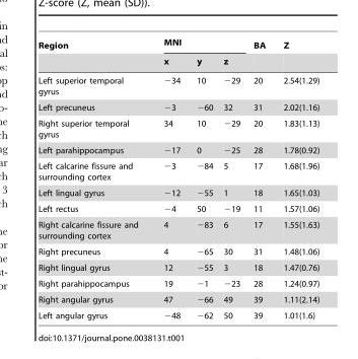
<table><thead><tr><td rowspan="2">Region</td><td colspan="3">MNI</td><td rowspan="2">BA</td><td rowspan="2">Z</td></tr><tr><td>x</td><td>y</td><td>z</td></tr></thead><tbody><tr><td>Left superior temporal gyrus</td><td>−34</td><td>10</td><td>−29</td><td>20</td><td>2.54(1.29)</td></tr><tr><td>Left precuneus</td><td>−3</td><td>−60</td><td>32</td><td>31</td><td>2.02(1.16)</td></tr><tr><td>Right superior temporal gyrus</td><td>34</td><td>10</td><td>−29</td><td>20</td><td>1.83(1.13)</td></tr><tr><td>Left parahippocampus</td><td>−17</td><td>0</td><td>−25</td><td>28</td><td>1.78(0.92)</td></tr><tr><td>Left calcarine fissure and surrounding cortex</td><td>−3</td><td>−84</td><td>5</td><td>17</td><td>1.68(1.96)</td></tr><tr><td>Left lingual gyrus</td><td>−12</td><td>−55</td><td>1</td><td>18</td><td>1.65(1.03)</td></tr><tr><td>Left rectus</td><td>−4</td><td>50</td><td>−19</td><td>11</td><td>1.57(1.06)</td></tr><tr><td>Right calcarine fissure and surrounding cortex</td><td>4</td><td>−83</td><td>6</td><td>17</td><td>1.55(1.63)</td></tr><tr><td>Right precuneus</td><td>4</td><td>−65</td><td>30</td><td>31</td><td>1.48(1.06)</td></tr><tr><td>Right lingual gyrus</td><td>12</td><td>−55</td><td>3</td><td>18</td><td>1.47(0.76)</td></tr><tr><td>Right parahippocampus</td><td>19</td><td>−1</td><td>−23</td><td>28</td><td>1.24(0.97)</td></tr><tr><td>Right angular gyrus</td><td>47</td><td>−66</td><td>49</td><td>39</td><td>1.11(2.14)</td></tr><tr><td>Left angular gyrus</td><td>−48</td><td>−62</td><td>50</td><td>39</td><td>1.01(1.6)</td></tr></tbody></table>